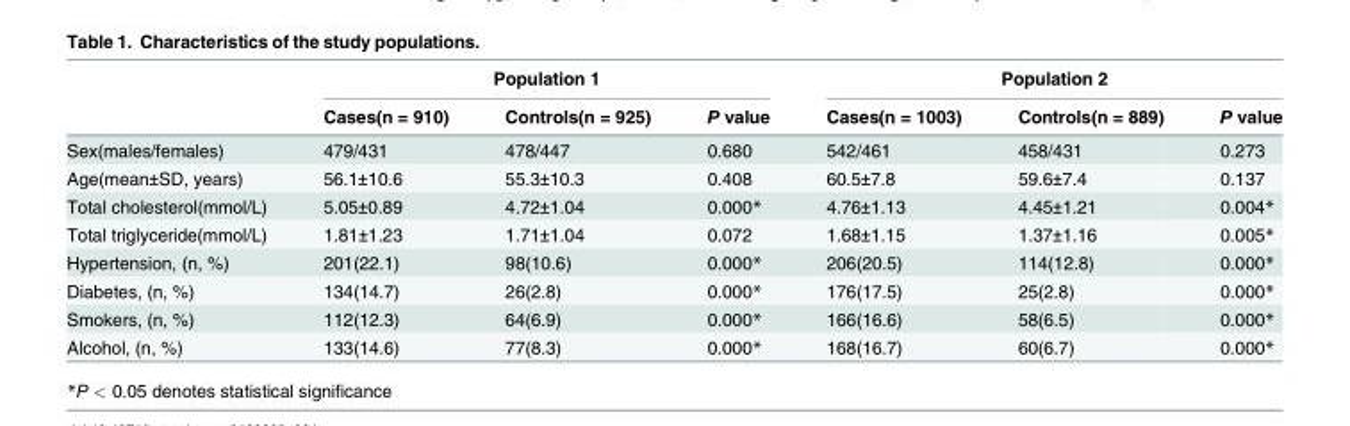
<table><thead><tr><td rowspan="2"></td><td colspan="3">Population 1</td><td colspan="3">Population 2</td></tr><tr><td>Cases(n = 910)</td><td>Controls(n = 925)</td><td>P value</td><td>Cases(n = 1003)</td><td>Controls(n = 889)</td><td>P value</td></tr></thead><tbody><tr><td>Sex(males/females)</td><td>479/431</td><td>478/447</td><td>0.680</td><td>542/461</td><td>458/431</td><td>0.273</td></tr><tr><td>Age(mean±SD, years)</td><td>56.1±10.6</td><td>55.3±10.3</td><td>0.408</td><td>60.5±7.8</td><td>59.6±7.4</td><td>0.137</td></tr><tr><td>Total cholesterol(mmol/L)</td><td>5.05±0.89</td><td>4.72±1.04</td><td>0.000*</td><td>4.76±1.13</td><td>4.45±1.21</td><td>0.004*</td></tr><tr><td>Total triglyceride(mmol/L)</td><td>1.81±1.23</td><td>1.71±1.04</td><td>0.072</td><td>1.68±1.15</td><td>1.37±1.16</td><td>0.005*</td></tr><tr><td>Hypertension, (n, %)</td><td>201(22.1)</td><td>98(10.6)</td><td>0.000*</td><td>206(20.5)</td><td>114(12.8)</td><td>0.000*</td></tr><tr><td>Diabetes, (n, %)</td><td>134(14.7)</td><td>26(2.8)</td><td>0.000*</td><td>176(17.5)</td><td>25(2.8)</td><td>0.000*</td></tr><tr><td>Smokers, (n, %)</td><td>112(12.3)</td><td>64(6.9)</td><td>0.000*</td><td>166(16.6)</td><td>58(6.5)</td><td>0.000*</td></tr><tr><td>Alcohol, (n, %)</td><td>133(14.6)</td><td>77(8.3)</td><td>0.000*</td><td>168(16.7)</td><td>60(6.7)</td><td>0.000*</td></tr></tbody></table>